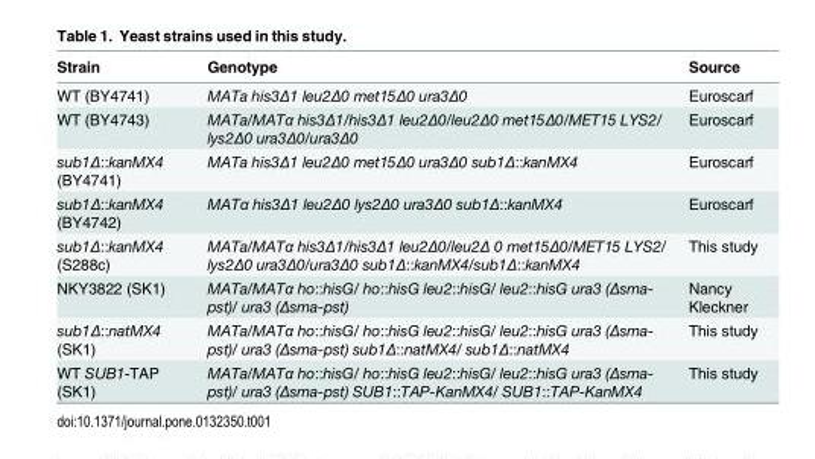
<table><thead><tr><td>Strain</td><td>Genotype</td><td>Source</td></tr></thead><tbody><tr><td>WT (BY4741)</td><td>MATa his3Δ1 leu2Δ0 met15Δ0 ura3Δ0</td><td>Euroscarf</td></tr><tr><td>WT (BY4743)</td><td>MATa/MATα his3Δ1/his3Δ1 leu2Δ0/leu2Δ0 met15Δ0/MET15 LYS2/ lys2Δ0 ura3Δ0/ura3Δ0</td><td>Euroscarf</td></tr><tr><td>sub1Δ::kanMX4 (BY4741)</td><td>MATa his3Δ1 leu2Δ0 met15Δ0 ura3Δ0 sub1Δ::kanMX4</td><td>Euroscarf</td></tr><tr><td>sub1Δ::kanMX4 (BY4742)</td><td>MATα his3Δ1 leu2Δ0 lys2Δ0 ura3Δ0 sub1Δ::kanMX4</td><td>Euroscarf</td></tr><tr><td>sub1Δ::kanMX4 (S288c)</td><td>MATa/MATα his3Δ1/his3Δ1 leu2Δ0/leu2Δ 0 met15Δ0/MET15 LYS2/ lys2Δ0 ura3Δ0/ura3Δ0 sub1Δ::kanMX4/sub1Δ::kanMX4</td><td>This study</td></tr><tr><td>NKY3822 (SK1)</td><td>MATa/MATα ho::hisG/ ho::hisG leu2::hisG/ leu2::hisG ura3 (Δsma- pst)/ ura3 (Δsma-pst)</td><td>Nancy Kleckner</td></tr><tr><td>sub1Δ::natMX4 (SK1)</td><td>MATa/MATα ho::hisG/ ho::hisG leu2::hisG/ leu2::hisG ura3 (Δsma- pst)/ ura3 (Δsma-pst) sub1Δ::natMX4/ sub1Δ::natMX4</td><td>This study</td></tr><tr><td>WT SUB1-TAP (SK1)</td><td>MATa/MATα ho::hisG/ ho::hisG leu2::hisG/ leu2::hisG ura3 (Δsma- pst)/ ura3 (Δsma-pst) SUB1::TAP-KanMX4/ SUB1::TAP-KanMX4</td><td>This study</td></tr></tbody></table>